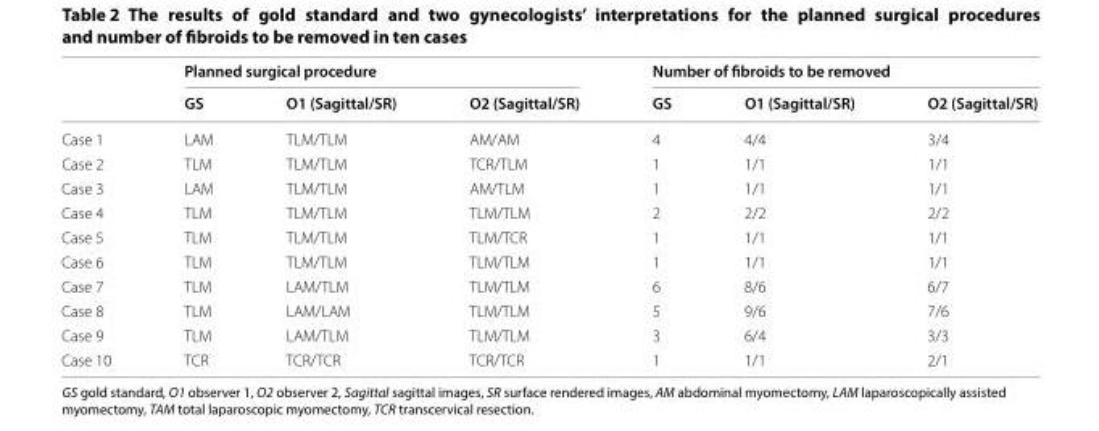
<table><thead><tr><td rowspan="2"></td><td colspan="3">Planned surgical procedure</td><td colspan="3">Number of fibroids to be removed</td></tr><tr><td>GS</td><td>O1 (Sagittal/SR)</td><td>O2 (Sagittal/SR)</td><td>GS</td><td>O1 (Sagittal/SR)</td><td>O2 (Sagittal/SR)</td></tr></thead><tbody><tr><td>Case 1</td><td>LAM</td><td>TLM/TLM</td><td>AM/AM</td><td>4</td><td>4/4</td><td>3/4</td></tr><tr><td>Case 2</td><td>TLM</td><td>TLM/TLM</td><td>TCR/TLM</td><td>1</td><td>1/1</td><td>1/1</td></tr><tr><td>Case 3</td><td>LAM</td><td>TLM/TLM</td><td>AM/TLM</td><td>1</td><td>1/1</td><td>1/1</td></tr><tr><td>Case 4</td><td>TLM</td><td>TLM/TLM</td><td>TLM/TLM</td><td>2</td><td>2/2</td><td>2/2</td></tr><tr><td>Case 5</td><td>TLM</td><td>TLM/TLM</td><td>TLM/TCR</td><td>1</td><td>1/1</td><td>1/1</td></tr><tr><td>Case 6</td><td>TLM</td><td>TLM/TLM</td><td>TLM/TLM</td><td>1</td><td>1/1</td><td>1/1</td></tr><tr><td>Case 7</td><td>TLM</td><td>LAM/TLM</td><td>TLM/TLM</td><td>6</td><td>8/6</td><td>6/7</td></tr><tr><td>Case 8</td><td>TLM</td><td>LAM/LAM</td><td>TLM/TLM</td><td>5</td><td>9/6</td><td>7/6</td></tr><tr><td>Case 9</td><td>TLM</td><td>LAM/TLM</td><td>TLM/TLM</td><td>3</td><td>6/4</td><td>3/3</td></tr><tr><td>Case 10</td><td>TCR</td><td>TCR/TCR</td><td>TCR/TCR</td><td>1</td><td>1/1</td><td>2/1</td></tr></tbody></table>